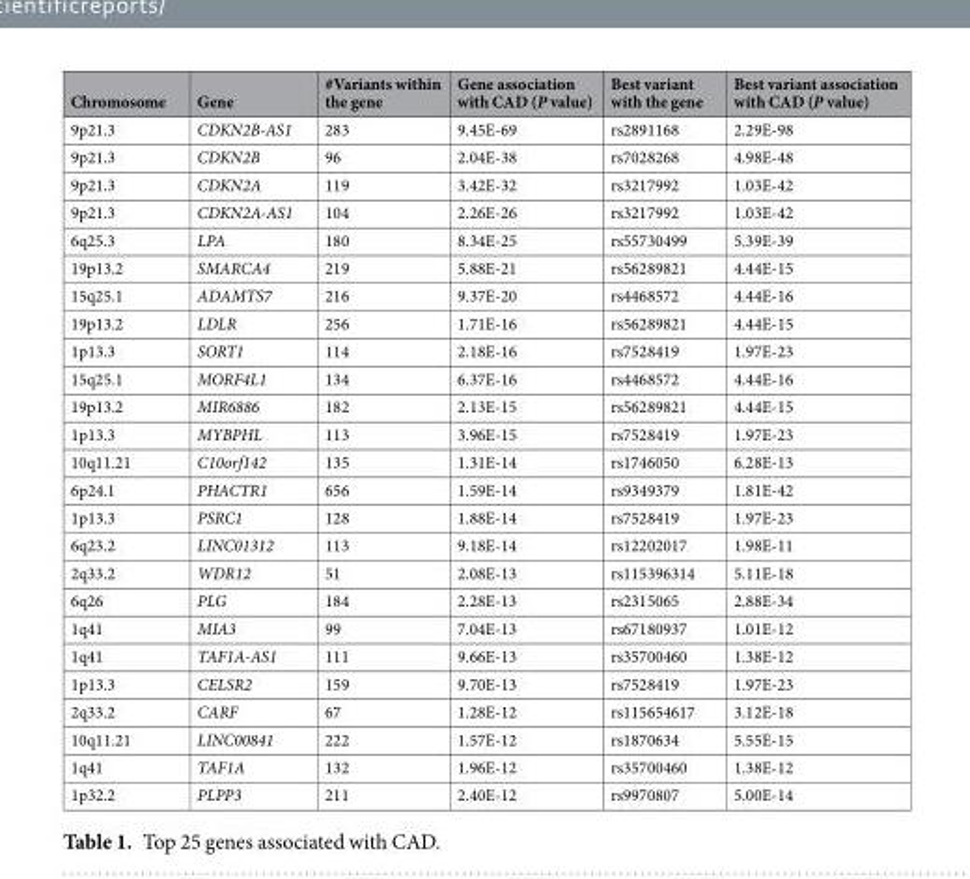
<table><thead><tr><td>Chromosome</td><td>Gene</td><td>#Variants within the gene</td><td>Gene association with CAD (P value)</td><td>Best variant with the gene</td><td>Best variant association with CAD (P value)</td></tr></thead><tbody><tr><td>9p21.3</td><td>CDKN2B-AS1</td><td>283</td><td>9.45E-69</td><td>rs2891168</td><td>2.29E-98</td></tr><tr><td>9p21.3</td><td>CDKN2B</td><td>96</td><td>2.04E-38</td><td>rs7028268</td><td>4.98E-48</td></tr><tr><td>9p21.3</td><td>CDKN2A</td><td>119</td><td>3.42E-32</td><td>rs3217992</td><td>1.03E-42</td></tr><tr><td>9p21.3</td><td>CDKN2A-AS1</td><td>104</td><td>2.26E-26</td><td>rs3217992</td><td>1.03E-42</td></tr><tr><td>6q25.3</td><td>LPA</td><td>180</td><td>8.34E-25</td><td>rs55730499</td><td>5.39E-39</td></tr><tr><td>19p13.2</td><td>SMARCA4</td><td>219</td><td>5.88E-21</td><td>rs56289821</td><td>4.44E-15</td></tr><tr><td>15q25.1</td><td>ADAMTS7</td><td>216</td><td>9.37E-20</td><td>rs4468572</td><td>4.44E-16</td></tr><tr><td>19p13.2</td><td>LDLR</td><td>256</td><td>1.71E-16</td><td>rs56289821</td><td>4.44E-15</td></tr><tr><td>1p13.3</td><td>SORT1</td><td>114</td><td>2.18E-16</td><td>rs7528419</td><td>1.97E-23</td></tr><tr><td>15q25.1</td><td>MORF4L1</td><td>134</td><td>6.37E-16</td><td>rs4468572</td><td>4.44E-16</td></tr><tr><td>19p13.2</td><td>MIR6886</td><td>182</td><td>2.13E-15</td><td>rs56289821</td><td>4.44E-15</td></tr><tr><td>1p13.3</td><td>MYBPHL</td><td>113</td><td>3.96E-15</td><td>rs7528419</td><td>1.97E-23</td></tr><tr><td>10q11.21</td><td>C10orf142</td><td>135</td><td>1.31E-14</td><td>rs1746050</td><td>6.28E-13</td></tr><tr><td>6p24.1</td><td>PHACTR1</td><td>656</td><td>1.59E-14</td><td>rs9349379</td><td>1.81E-42</td></tr><tr><td>1p13.3</td><td>PSRC1</td><td>128</td><td>1.88E-14</td><td>rs7528419</td><td>1.97E-23</td></tr><tr><td>6q23.2</td><td>LINC01312</td><td>113</td><td>9.18E-14</td><td>rs12202017</td><td>1.98E-11</td></tr><tr><td>2q33.2</td><td>WDR12</td><td>51</td><td>2.08E-13</td><td>rs115396314</td><td>5.11E-18</td></tr><tr><td>6q26</td><td>PLG</td><td>184</td><td>2.28E-13</td><td>rs2315065</td><td>2.88E-34</td></tr><tr><td>1q41</td><td>MIA3</td><td>99</td><td>7.04E-13</td><td>rs67180937</td><td>1.01E-12</td></tr><tr><td>1q41</td><td>TAF1A-AS1</td><td>111</td><td>9.66E-13</td><td>rs35700460</td><td>1.38E-12</td></tr><tr><td>1p13.3</td><td>CELSR2</td><td>159</td><td>9.70E-13</td><td>rs7528419</td><td>1.97E-23</td></tr><tr><td>2q33.2</td><td>CARF</td><td>67</td><td>1.28E-12</td><td>rs115654617</td><td>3.12E-18</td></tr><tr><td>10q11.21</td><td>LINC00841</td><td>222</td><td>1.57E-12</td><td>rs1870634</td><td>5.55E-15</td></tr><tr><td>1q41</td><td>TAF1A</td><td>132</td><td>1.96E-12</td><td>rs35700460</td><td>1.38E-12</td></tr><tr><td>1p32.2</td><td>PLPP3</td><td>211</td><td>2.40E-12</td><td>rs9970807</td><td>5.00E-14</td></tr></tbody></table>